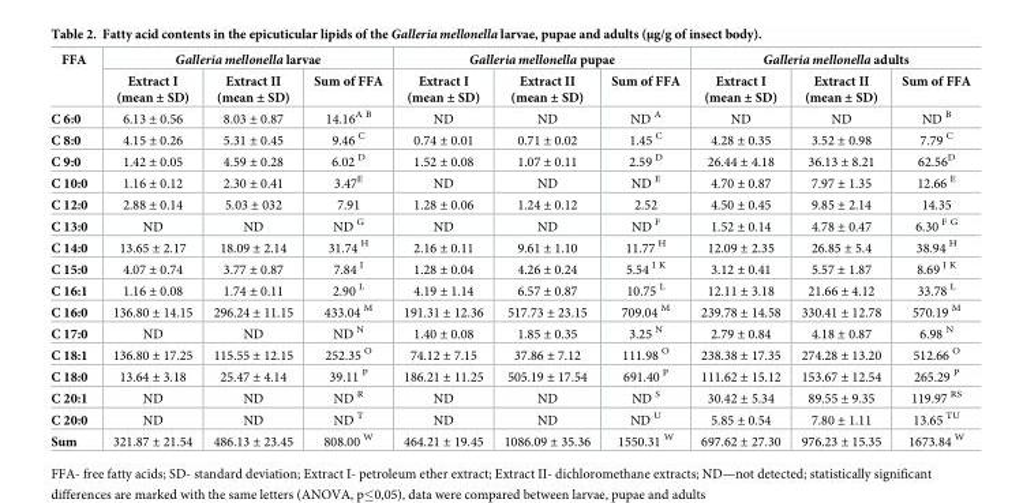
<table><thead><tr><td rowspan="2">FFA</td><td colspan="3">Galleria mellonella larvae</td><td colspan="3">Galleria mellonella pupae</td><td colspan="3">Galleria mellonella adults</td></tr><tr><td>Extract I (mean ± SD)</td><td>Extract II (mean ± SD)</td><td>Sum of FFA</td><td>Extract I (mean ± SD)</td><td>Extract II (mean ± SD)</td><td>Sum of FFA</td><td>Extract I (mean ± SD)</td><td>Extract II (mean ± SD)</td><td>Sum of FFA</td></tr></thead><tbody><tr><td>C 6:0</td><td>6.13 ± 0.56</td><td>8.03 ± 0.87</td><td>14.16<sup>A B</sup></td><td>ND</td><td>ND</td><td>ND <sup>A</sup></td><td>ND</td><td>ND</td><td>ND <sup>B</sup></td></tr><tr><td>C 8:0</td><td>4.15 ± 0.26</td><td>5.31 ± 0.45</td><td>9.46 <sup>C</sup></td><td>0.74 ± 0.01</td><td>0.71 ± 0.02</td><td>1.45 <sup>C</sup></td><td>4.28 ± 0.35</td><td>3.52 ± 0.98</td><td>7.79 <sup>C</sup></td></tr><tr><td>C 9:0</td><td>1.42 ± 0.05</td><td>4.59 ± 0.28</td><td>6.02 <sup>D</sup></td><td>1.52 ± 0.08</td><td>1.07 ± 0.11</td><td>2.59 <sup>D</sup></td><td>26.44 ± 4.18</td><td>36.13 ± 8.21</td><td>62.56<sup>D</sup></td></tr><tr><td>C 10:0</td><td>1.16 ± 0.12</td><td>2.30 ± 0.41</td><td>3.47<sup>E</sup></td><td>ND</td><td>ND</td><td>ND <sup>E</sup></td><td>4.70 ± 0.87</td><td>7.97 ± 1.35</td><td>12.66 <sup>E</sup></td></tr><tr><td>C 12:0</td><td>2.88 ± 0.14</td><td>5.03 ± 032</td><td>7.91</td><td>1.28 ± 0.06</td><td>1.24 ± 0.12</td><td>2.52</td><td>4.50 ± 0.45</td><td>9.85 ± 2.14</td><td>14.35</td></tr><tr><td>C 13:0</td><td>ND</td><td>ND</td><td>ND <sup>G</sup></td><td>ND</td><td>ND</td><td>ND <sup>F</sup></td><td>1.52 ± 0.14</td><td>4.78 ± 0.47</td><td>6.30 <sup>F G</sup></td></tr><tr><td>C 14:0</td><td>13.65 ± 2.17</td><td>18.09 ± 2.14</td><td>31.74 <sup>H</sup></td><td>2.16 ± 0.11</td><td>9.61 ± 1.10</td><td>11.77 <sup>H</sup></td><td>12.09 ± 2.35</td><td>26.85 ± 5.4</td><td>38.94 <sup>H</sup></td></tr><tr><td>C 15:0</td><td>4.07 ± 0.74</td><td>3.77 ± 0.87</td><td>7.84 <sup>I</sup></td><td>1.28 ± 0.04</td><td>4.26 ± 0.24</td><td>5.54 <sup>I K</sup></td><td>3.12 ± 0.41</td><td>5.57 ± 1.87</td><td>8.69 <sup>J K</sup></td></tr><tr><td>C 16:1</td><td>1.16 ± 0.08</td><td>1.74 ± 0.11</td><td>2.90 <sup>L</sup></td><td>4.19 ± 1.14</td><td>6.57 ± 0.87</td><td>10.75 <sup>L</sup></td><td>12.11 ± 3.18</td><td>21.66 ± 4.12</td><td>33.78 <sup>L</sup></td></tr><tr><td>C 16:0</td><td>136.80 ± 14.15</td><td>296.24 ± 11.15</td><td>433.04 <sup>M</sup></td><td>191.31 ± 12.36</td><td>517.73 ± 23.15</td><td>709.04 <sup>M</sup></td><td>239.78 ± 14.58</td><td>330.41 ± 12.78</td><td>570.19 <sup>M</sup></td></tr><tr><td>C 17:0</td><td>ND</td><td>ND</td><td>ND <sup>N</sup></td><td>1.40 ± 0.08</td><td>1.85 ± 0.35</td><td>3.25 <sup>N</sup></td><td>2.79 ± 0.84</td><td>4.18 ± 0.87</td><td>6.98 <sup>N</sup></td></tr><tr><td>C 18:1</td><td>136.80 ± 17.25</td><td>115.55 ± 12.15</td><td>252.35 <sup>O</sup></td><td>74.12 ± 7.15</td><td>37.86 ± 7.12</td><td>111.98 <sup>O</sup></td><td>238.38 ± 17.35</td><td>274.28 ± 13.20</td><td>512.66 <sup>O</sup></td></tr><tr><td>C 18:0</td><td>13.64 ± 3.18</td><td>25.47 ± 4.14</td><td>39.11 <sup>P</sup></td><td>186.21 ± 11.25</td><td>505.19 ± 17.54</td><td>691.40 <sup>P</sup></td><td>111.62 ± 15.12</td><td>153.67 ± 12.54</td><td>265.29 <sup>P</sup></td></tr><tr><td>C 20:1</td><td>ND</td><td>ND</td><td>ND <sup>R</sup></td><td>ND</td><td>ND</td><td>ND <sup>S</sup></td><td>30.42 ± 5.34</td><td>89.55 ± 9.35</td><td>119.97 <sup>RS</sup></td></tr><tr><td>C 20:0</td><td>ND</td><td>ND</td><td>ND <sup>T</sup></td><td>ND</td><td>ND</td><td>ND <sup>U</sup></td><td>5.85 ± 0.54</td><td>7.80 ± 1.11</td><td>13.65 <sup>TU</sup></td></tr><tr><td>Sum</td><td>321.87 ± 21.54</td><td>486.13 ± 23.45</td><td>808.00 <sup>W</sup></td><td>464.21 ± 19.45</td><td>1086.09 ± 35.36</td><td>1550.31 <sup>W</sup></td><td>697.62 ± 27.30</td><td>976.23 ± 15.35</td><td>1673.84 <sup>W</sup></td></tr></tbody></table>